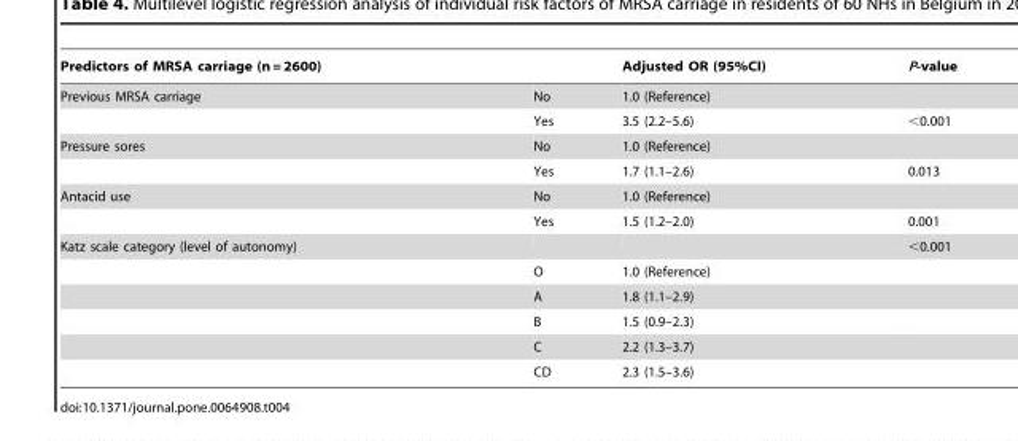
<table><thead><tr><td>Predictors of MRSA carriage (n = 2600)</td><td></td><td>Adjusted OR (95%CI)</td><td>P-value</td></tr></thead><tbody><tr><td rowspan="2">Previous MRSA carriage</td><td>No</td><td>1.0 (Reference)</td><td></td></tr><tr><td>Yes</td><td>3.5 (2.2–5.6)</td><td>&lt;0.001</td></tr><tr><td rowspan="2">Pressure sores</td><td>No</td><td>1.0 (Reference)</td><td></td></tr><tr><td>Yes</td><td>1.7 (1.1–2.6)</td><td>0.013</td></tr><tr><td rowspan="2">Antacid use</td><td>No</td><td>1.0 (Reference)</td><td></td></tr><tr><td>Yes</td><td>1.5 (1.2–2.0)</td><td>0.001</td></tr><tr><td rowspan="6">Katz scale category (level of autonomy)</td><td></td><td></td><td>&lt;0.001</td></tr><tr><td>O</td><td>1.0 (Reference)</td><td></td></tr><tr><td>A</td><td>1.8 (1.1–2.9)</td><td></td></tr><tr><td>B</td><td>1.5 (0.9–2.3)</td><td></td></tr><tr><td>C</td><td>2.2 (1.3–3.7)</td><td></td></tr><tr><td>CD</td><td>2.3 (1.5–3.6)</td><td></td></tr></tbody></table>